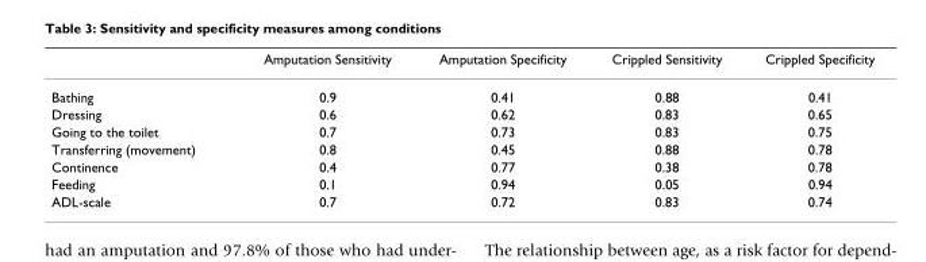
<table><thead><tr><td></td><td>Amputation Sensitivity</td><td>Amputation Specificity</td><td>Crippled Sensitivity</td><td>Crippled Specificity</td></tr></thead><tbody><tr><td>Bathing</td><td>0.9</td><td>0.41</td><td>0.88</td><td>0.41</td></tr><tr><td>Dressing</td><td>0.6</td><td>0.62</td><td>0.83</td><td>0.65</td></tr><tr><td>Going to the toilet</td><td>0.7</td><td>0.73</td><td>0.83</td><td>0.75</td></tr><tr><td>Transferring (movement)</td><td>0.8</td><td>0.45</td><td>0.88</td><td>0.78</td></tr><tr><td>Continence</td><td>0.4</td><td>0.77</td><td>0.38</td><td>0.78</td></tr><tr><td>Feeding</td><td>0.1</td><td>0.94</td><td>0.05</td><td>0.94</td></tr><tr><td>ADL-scale</td><td>0.7</td><td>0.72</td><td>0.83</td><td>0.74</td></tr></tbody></table>